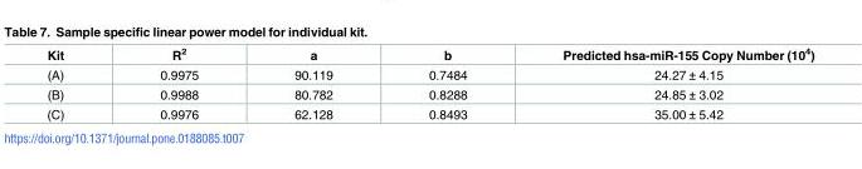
<table><thead><tr><td>Kit</td><td>R<sup>2</sup></td><td>a</td><td>b</td><td>Predicted hsa-miR-155 Copy Number (10<sup>4</sup>)</td></tr></thead><tbody><tr><td>(A)</td><td>0.9975</td><td>90.119</td><td>0.7484</td><td>24.27 ± 4.15</td></tr><tr><td>(B)</td><td>0.9988</td><td>80.782</td><td>0.8288</td><td>24.85 ± 3.02</td></tr><tr><td>(C)</td><td>0.9976</td><td>62.128</td><td>0.8493</td><td>35.00 ± 5.42</td></tr></tbody></table>